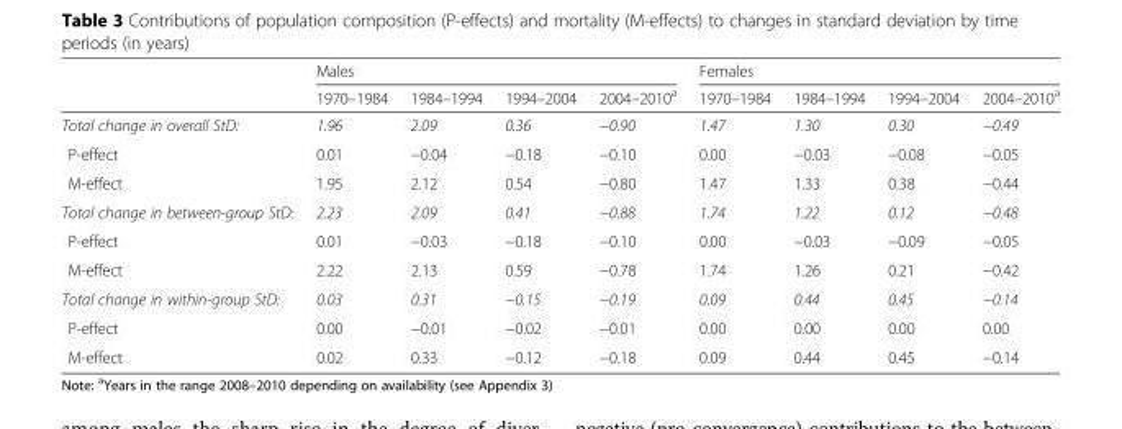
<table><thead><tr><td rowspan="2"></td><td colspan="4">Males</td><td colspan="4">Females</td></tr><tr><td>1970–1984</td><td>1984–1994</td><td>1994–2004</td><td>2004–2010<sup>a</sup></td><td>1970–1984</td><td>1984–1994</td><td>1994–2004</td><td>2004–2010<sup>a</sup></td></tr></thead><tbody><tr><td>Total change in overall StD:</td><td>1.96</td><td>2.09</td><td>0.36</td><td>−0.90</td><td>1.47</td><td>1.30</td><td>0.30</td><td>−0.49</td></tr><tr><td>P-effect</td><td>0.01</td><td>−0.04</td><td>−0.18</td><td>−0.10</td><td>0.00</td><td>−0.03</td><td>−0.08</td><td>−0.05</td></tr><tr><td>M-effect</td><td>1.95</td><td>2.12</td><td>0.54</td><td>−0.80</td><td>1.47</td><td>1.33</td><td>0.38</td><td>−0.44</td></tr><tr><td>Total change in between-group StD:</td><td>2.23</td><td>2.09</td><td>0.41</td><td>−0.88</td><td>1.74</td><td>1.22</td><td>0.12</td><td>−0.48</td></tr><tr><td>P-effect</td><td>0.01</td><td>−0.03</td><td>−0.18</td><td>−0.10</td><td>0.00</td><td>−0.03</td><td>−0.09</td><td>−0.05</td></tr><tr><td>M-effect</td><td>2.22</td><td>2.13</td><td>0.59</td><td>−0.78</td><td>1.74</td><td>1.26</td><td>0.21</td><td>−0.42</td></tr><tr><td>Total change in within-group StD:</td><td>0.03</td><td>0.31</td><td>−0.15</td><td>−0.19</td><td>0.09</td><td>0.44</td><td>0.45</td><td>−0.14</td></tr><tr><td>P-effect</td><td>0.00</td><td>−0.01</td><td>−0.02</td><td>−0.01</td><td>0.00</td><td>0.00</td><td>0.00</td><td>0.00</td></tr><tr><td>M-effect</td><td>0.02</td><td>0.33</td><td>−0.12</td><td>−0.18</td><td>0.09</td><td>0.44</td><td>0.45</td><td>−0.14</td></tr></tbody></table>